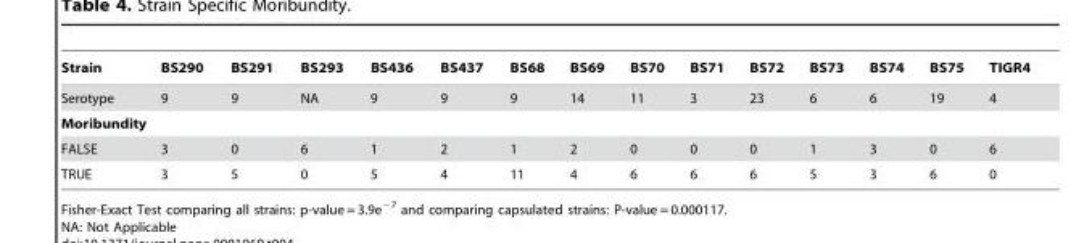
<table><thead><tr><td>Strain</td><td>BS290</td><td>BS291</td><td>BS293</td><td>BS436</td><td>BS437</td><td>BS68</td><td>BS69</td><td>BS70</td><td>BS71</td><td>BS72</td><td>BS73</td><td>BS74</td><td>BS75</td><td>TIGR4</td></tr></thead><tbody><tr><td>Serotype</td><td>9</td><td>9</td><td>NA</td><td>9</td><td>9</td><td>9</td><td>14</td><td>11</td><td>3</td><td>23</td><td>6</td><td>6</td><td>19</td><td>4</td></tr><tr><td colspan="15">Moribundity</td></tr><tr><td>FALSE</td><td>3</td><td>0</td><td>6</td><td>1</td><td>2</td><td>1</td><td>2</td><td>0</td><td>0</td><td>0</td><td>1</td><td>3</td><td>0</td><td>6</td></tr><tr><td>TRUE</td><td>3</td><td>5</td><td>0</td><td>5</td><td>4</td><td>11</td><td>4</td><td>6</td><td>6</td><td>6</td><td>5</td><td>3</td><td>6</td><td>0</td></tr></tbody></table>